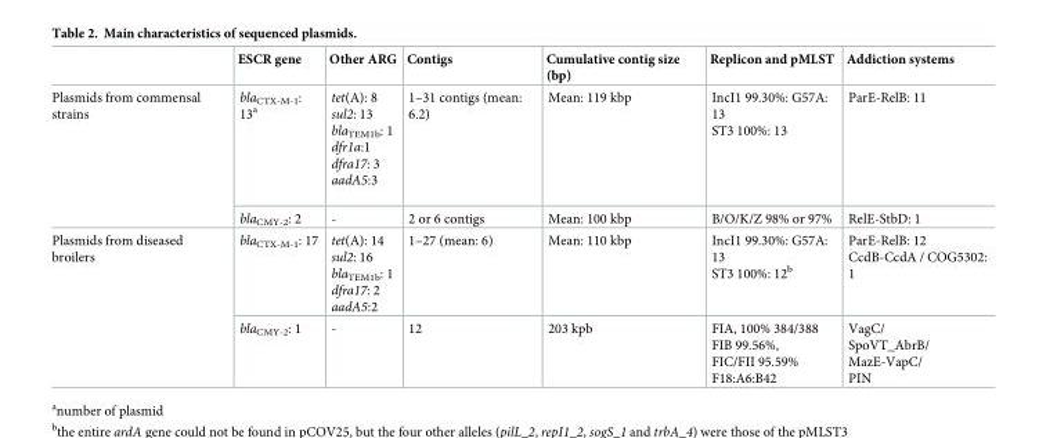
<table><thead><tr><td></td><td>ESCR gene</td><td>Other ARG</td><td>Contigs</td><td>Cumulative contig size (bp)</td><td>Replicon and pMLST</td><td>Addiction systems</td></tr></thead><tbody><tr><td rowspan="2">Plasmids from commensal strains</td><td>bla<sub>CTX-M-1</sub>: 13<sup>a</sup></td><td>tet(A): 8 sul2: 13 bla<sub>TEM1b</sub>: 1 dfr1a:1 dfra17: 3 aadA5:3</td><td>1–31 contigs (mean: 6.2)</td><td>Mean: 119 kbp</td><td>IncI1 99.30%: G57A: 13 ST3 100%: 13</td><td>ParE-RelB: 11</td></tr><tr><td>bla<sub>CMY-2</sub>: 2</td><td>-</td><td>2 or 6 contigs</td><td>Mean: 100 kbp</td><td>B/O/K/Z 98% or 97%</td><td>RelE-StbD: 1</td></tr><tr><td rowspan="2">Plasmids from diseased broilers</td><td>bla<sub>CTX-M-1</sub>: 17</td><td>tet(A): 14 sul2: 16 bla<sub>TEM1b</sub>: 1 dfra17: 2 aadA5:2</td><td>1–27 (mean: 6)</td><td>Mean: 110 kbp</td><td>IncI1 99.30%: G57A: 13 ST3 100%: 12<sup>b</sup></td><td>ParE-RelB: 12 CcdB-CcdA / COG5302: 1</td></tr><tr><td>bla<sub>CMY-2</sub>: 1</td><td>-</td><td>12</td><td>203 kpb</td><td>FIA, 100% 384/388 FIB 99.56%, FIC/FII 95.59% F18:A6:B42</td><td>VagC/ SpoVT_AbrB/ MazE-VapC/ PIN</td></tr></tbody></table>